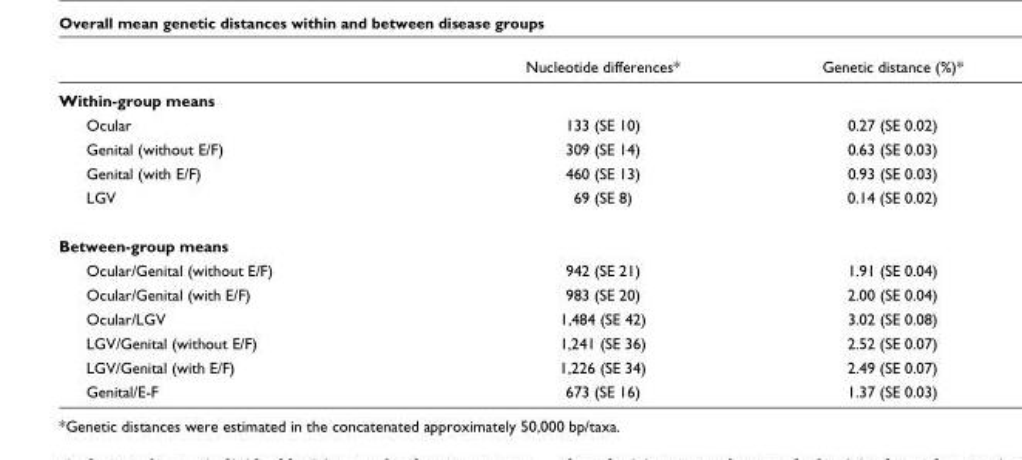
<table><thead><tr><td></td><td>Nucleotide differences*</td><td>Genetic distance (%)*</td></tr></thead><tbody><tr><td colspan="3">Within-group means</td></tr><tr><td>Ocular</td><td>133 (SE 10)</td><td>0.27 (SE 0.02)</td></tr><tr><td>Genital (without E/F)</td><td>309 (SE 14)</td><td>0.63 (SE 0.03)</td></tr><tr><td>Genital (with E/F)</td><td>460 (SE 13)</td><td>0.93 (SE 0.03)</td></tr><tr><td>LGV</td><td>69 (SE 8)</td><td>0.14 (SE 0.02)</td></tr><tr><td colspan="3">Between-group means</td></tr><tr><td>Ocular/Genital (without E/F)</td><td>942 (SE 21)</td><td>1.91 (SE 0.04)</td></tr><tr><td>Ocular/Genital (with E/F)</td><td>983 (SE 20)</td><td>2.00 (SE 0.04)</td></tr><tr><td>Ocular/LGV</td><td>1,484 (SE 42)</td><td>3.02 (SE 0.08)</td></tr><tr><td>LGV/Genital (without E/F)</td><td>1,241 (SE 36)</td><td>2.52 (SE 0.07)</td></tr><tr><td>LGV/Genital (with E/F)</td><td>1,226 (SE 34)</td><td>2.49 (SE 0.07)</td></tr><tr><td>Genital/E-F</td><td>673 (SE 16)</td><td>1.37 (SE 0.03)</td></tr></tbody></table>